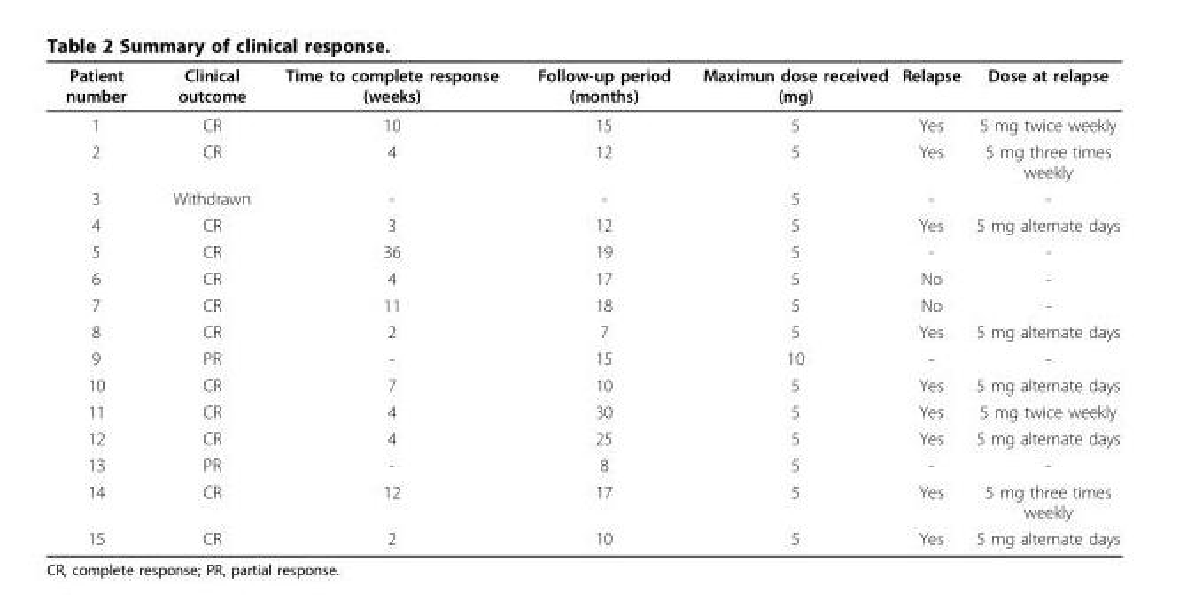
<table><thead><tr><td>Patient number</td><td>Clinical outcome</td><td>Time to complete response (weeks)</td><td>Follow-up period (months)</td><td>Maximun dose received (mg)</td><td>Relapse</td><td>Dose at relapse</td></tr></thead><tbody><tr><td>1</td><td>CR</td><td>10</td><td>15</td><td>5</td><td>Yes</td><td>5 mg twice weekly</td></tr><tr><td>2</td><td>CR</td><td>4</td><td>12</td><td>5</td><td>Yes</td><td>5 mg three times weekly</td></tr><tr><td>3</td><td>Withdrawn</td><td>-</td><td>-</td><td>5</td><td>-</td><td>-</td></tr><tr><td>4</td><td>CR</td><td>3</td><td>12</td><td>5</td><td>Yes</td><td>5 mg alternate days</td></tr><tr><td>5</td><td>CR</td><td>36</td><td>19</td><td>5</td><td>-</td><td>-</td></tr><tr><td>6</td><td>CR</td><td>4</td><td>17</td><td>5</td><td>No</td><td>-</td></tr><tr><td>7</td><td>CR</td><td>11</td><td>18</td><td>5</td><td>No</td><td>-</td></tr><tr><td>8</td><td>CR</td><td>2</td><td>7</td><td>5</td><td>Yes</td><td>5 mg alternate days</td></tr><tr><td>9</td><td>PR</td><td>-</td><td>15</td><td>10</td><td>-</td><td>-</td></tr><tr><td>10</td><td>CR</td><td>7</td><td>10</td><td>5</td><td>Yes</td><td>5 mg alternate days</td></tr><tr><td>11</td><td>CR</td><td>4</td><td>30</td><td>5</td><td>Yes</td><td>5 mg twice weekly</td></tr><tr><td>12</td><td>CR</td><td>4</td><td>25</td><td>5</td><td>Yes</td><td>5 mg alternate days</td></tr><tr><td>13</td><td>PR</td><td>-</td><td>8</td><td>5</td><td>-</td><td>-</td></tr><tr><td>14</td><td>CR</td><td>12</td><td>17</td><td>5</td><td>Yes</td><td>5 mg three times weekly</td></tr><tr><td>15</td><td>CR</td><td>2</td><td>10</td><td>5</td><td>Yes</td><td>5 mg alternate days</td></tr></tbody></table>